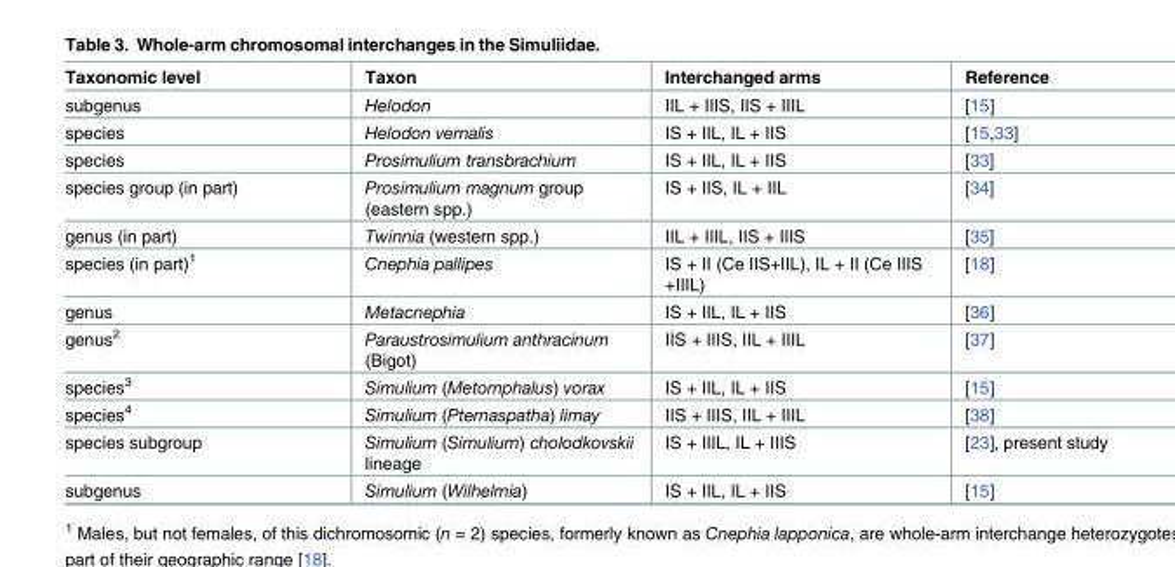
<table><thead><tr><td>Taxonomic level</td><td>Taxon</td><td>Interchanged arms</td><td>Reference</td></tr></thead><tbody><tr><td>subgenus</td><td>Helodon</td><td>IIL + IIIS, IIS + IIIL</td><td>[15]</td></tr><tr><td>species</td><td>Helodon vernalis</td><td>IS + IIL, IL + IIS</td><td>[15,33]</td></tr><tr><td>species</td><td>Prosimulium transbrachium</td><td>IS + IIL, IL + IIS</td><td>[33]</td></tr><tr><td>species group (in part)</td><td>Prosimulium magnum group (eastern spp.)</td><td>IS + IIS, IL + IIL</td><td>[34]</td></tr><tr><td>genus (in part)</td><td>Twinnia (western spp.)</td><td>IIL + IIIL, IIS + IIIS</td><td>[35]</td></tr><tr><td>species (in part)<sup>1</sup></td><td>Cnephia pallipes</td><td>IS + II (Ce IIS+IIL), IL + II (Ce IIIS +IIIL)</td><td>[18]</td></tr><tr><td>genus</td><td>Metacnephia</td><td>IS + IIL, IL + IIS</td><td>[36]</td></tr><tr><td>genus<sup>2</sup></td><td>Paraustrosimulium anthracinum (Bigot)</td><td>IIS + IIIS, IIL + IIIL</td><td>[37]</td></tr><tr><td>species<sup>3</sup></td><td>Simulium (Metomphalus) vorax</td><td>IS + IIL, IL + IIS</td><td>[15]</td></tr><tr><td>species<sup>4</sup></td><td>Simulium (Pternaspatha) limay</td><td>IIS + IIIS, IIL + IIIL</td><td>[38]</td></tr><tr><td>species subgroup</td><td>Simulium (Simulium) cholodkovskii lineage</td><td>IS + IIIL, IL + IIIS</td><td>[23], present study</td></tr><tr><td>subgenus</td><td>Simulium (Wilhelmia)</td><td>IS + IIL, IL + IIS</td><td>[15]</td></tr></tbody></table>